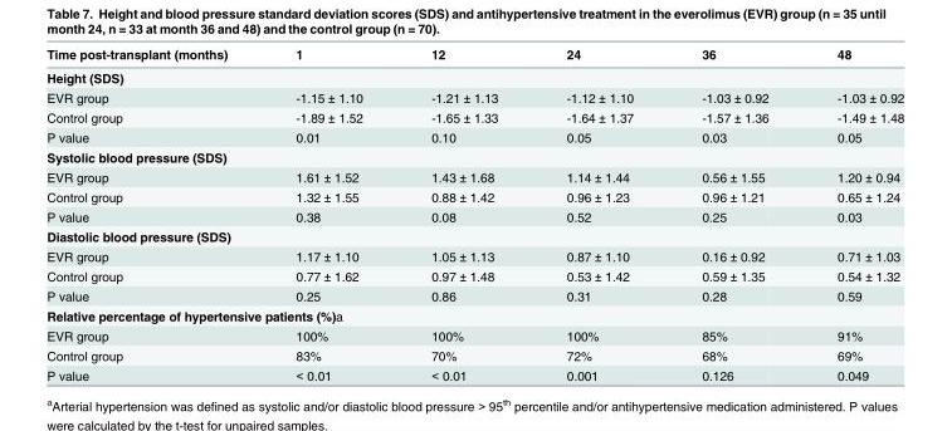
<table><thead><tr><td>Time post-transplant (months)</td><td>1</td><td>12</td><td>24</td><td>36</td><td>48</td></tr></thead><tbody><tr><td colspan="6">Height (SDS)</td></tr><tr><td>EVR group</td><td>-1.15 ± 1.10</td><td>-1.21 ± 1.13</td><td>-1.12 ± 1.10</td><td>-1.03 ± 0.92</td><td>-1.03 ± 0.92</td></tr><tr><td>Control group</td><td>-1.89 ± 1.52</td><td>-1.65 ± 1.33</td><td>-1.64 ± 1.37</td><td>-1.57 ± 1.36</td><td>-1.49 ± 1.48</td></tr><tr><td>P value</td><td>0.01</td><td>0.10</td><td>0.05</td><td>0.03</td><td>0.05</td></tr><tr><td colspan="6">Systolic blood pressure (SDS)</td></tr><tr><td>EVR group</td><td>1.61 ± 1.52</td><td>1.43 ± 1.68</td><td>1.14 ± 1.44</td><td>0.56 ± 1.55</td><td>1.20 ± 0.94</td></tr><tr><td>Control group</td><td>1.32 ± 1.55</td><td>0.88 ± 1.42</td><td>0.96 ± 1.23</td><td>0.96 ± 1.21</td><td>0.65 ± 1.24</td></tr><tr><td>P value</td><td>0.38</td><td>0.08</td><td>0.52</td><td>0.25</td><td>0.03</td></tr><tr><td colspan="6">Diastolic blood pressure (SDS)</td></tr><tr><td>EVR group</td><td>1.17 ± 1.10</td><td>1.05 ± 1.13</td><td>0.87 ± 1.10</td><td>0.16 ± 0.92</td><td>0.71 ± 1.03</td></tr><tr><td>Control group</td><td>0.77 ± 1.62</td><td>0.97 ± 1.48</td><td>0.53 ± 1.42</td><td>0.59 ± 1.35</td><td>0.54 ± 1.32</td></tr><tr><td>P value</td><td>0.25</td><td>0.86</td><td>0.31</td><td>0.28</td><td>0.59</td></tr><tr><td colspan="6">Relative percentage of hypertensive patients (%)a</td></tr><tr><td>EVR group</td><td>100%</td><td>100%</td><td>100%</td><td>85%</td><td>91%</td></tr><tr><td>Control group</td><td>83%</td><td>70%</td><td>72%</td><td>68%</td><td>69%</td></tr><tr><td>P value</td><td>&lt; 0.01</td><td>&lt; 0.01</td><td>0.001</td><td>0.126</td><td>0.049</td></tr></tbody></table>